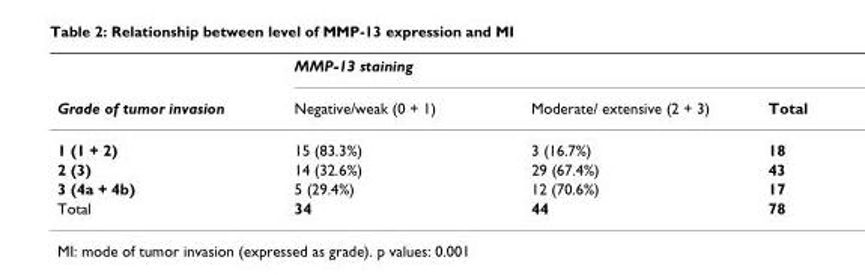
<table><thead><tr><td rowspan="2">Grade of tumor invasion</td><td colspan="3">MMP-13 staining</td></tr><tr><td>Negative/weak (0 + 1)</td><td>Moderate/ extensive (2 + 3)</td><td>Total</td></tr></thead><tbody><tr><td>1 (1 + 2)</td><td>15 (83.3%)</td><td>3 (16.7%)</td><td>18</td></tr><tr><td>2 (3)</td><td>14 (32.6%)</td><td>29 (67.4%)</td><td>43</td></tr><tr><td>3 (4a + 4b)</td><td>5 (29.4%)</td><td>12 (70.6%)</td><td>17</td></tr><tr><td>Total</td><td>34</td><td>44</td><td>78</td></tr></tbody></table>